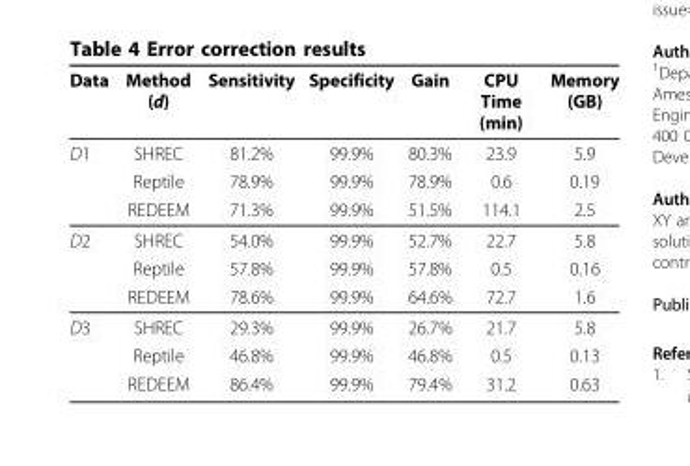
<table><thead><tr><td>Data</td><td>Method (d)</td><td>Sensitivity</td><td>Specificity</td><td>Gain</td><td>CPU Time (min)</td><td>Memory (GB)</td></tr></thead><tbody><tr><td rowspan="3">D1</td><td>SHREC</td><td>81.2%</td><td>99.9%</td><td>80.3%</td><td>23.9</td><td>5.9</td></tr><tr><td>Reptile</td><td>78.9%</td><td>99.9%</td><td>78.9%</td><td>0.6</td><td>0.19</td></tr><tr><td>REDEEM</td><td>71.3%</td><td>99.9%</td><td>51.5%</td><td>114.1</td><td>2.5</td></tr><tr><td rowspan="3">D2</td><td>SHREC</td><td>54.0%</td><td>99.9%</td><td>52.7%</td><td>22.7</td><td>5.8</td></tr><tr><td>Reptile</td><td>57.8%</td><td>99.9%</td><td>57.8%</td><td>0.5</td><td>0.16</td></tr><tr><td>REDEEM</td><td>78.6%</td><td>99.9%</td><td>64.6%</td><td>72.7</td><td>1.6</td></tr><tr><td rowspan="3">D3</td><td>SHREC</td><td>29.3%</td><td>99.9%</td><td>26.7%</td><td>21.7</td><td>5.8</td></tr><tr><td>Reptile</td><td>46.8%</td><td>99.9%</td><td>46.8%</td><td>0.5</td><td>0.13</td></tr><tr><td>REDEEM</td><td>86.4%</td><td>99.9%</td><td>79.4%</td><td>31.2</td><td>0.63</td></tr></tbody></table>